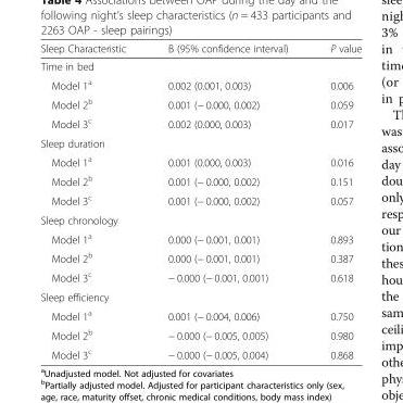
<table><thead><tr><td>Sleep Characteristic</td><td>Β (95% confidence interval)</td><td>P value</td></tr></thead><tbody><tr><td colspan="3">Time in bed</td></tr><tr><td>Model 1<sup>a</sup></td><td>0.002 (0.001, 0.003)</td><td>0.006</td></tr><tr><td>Model 2<sup>b</sup></td><td>0.001 (− 0.000, 0.002)</td><td>0.059</td></tr><tr><td>Model 3<sup>c</sup></td><td>0.002 (0.000, 0.003)</td><td>0.017</td></tr><tr><td colspan="3">Sleep duration</td></tr><tr><td>Model 1<sup>a</sup></td><td>0.001 (0.000, 0.003)</td><td>0.016</td></tr><tr><td>Model 2<sup>b</sup></td><td>0.001 (− 0.000, 0.002)</td><td>0.151</td></tr><tr><td>Model 3<sup>c</sup></td><td>0.001 (− 0.000, 0.002)</td><td>0.057</td></tr><tr><td colspan="3">Sleep chronology</td></tr><tr><td>Model 1<sup>a</sup></td><td>0.000 (− 0.001, 0.001)</td><td>0.893</td></tr><tr><td>Model 2<sup>b</sup></td><td>0.000 (− 0.001, 0.001)</td><td>0.387</td></tr><tr><td>Model 3<sup>c</sup></td><td>− 0.000 (− 0.001, 0.001)</td><td>0.618</td></tr><tr><td colspan="3">Sleep efficiency</td></tr><tr><td>Model 1<sup>a</sup></td><td>0.001 (− 0.004, 0.006)</td><td>0.750</td></tr><tr><td>Model 2<sup>b</sup></td><td>− 0.000 (− 0.005, 0.005)</td><td>0.980</td></tr><tr><td>Model 3<sup>c</sup></td><td>− 0.000 (− 0.005, 0.004)</td><td>0.868</td></tr></tbody></table>